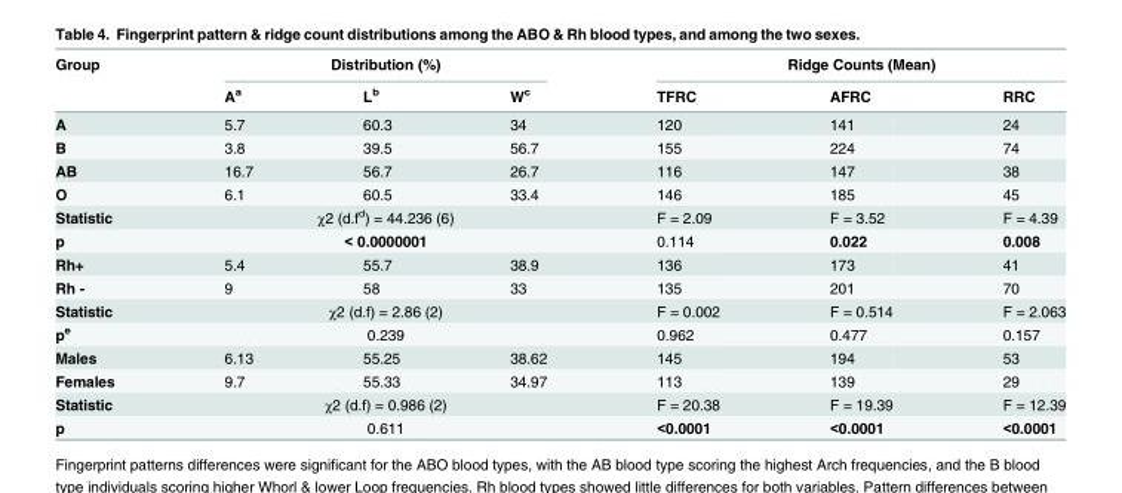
<table><thead><tr><td rowspan="2">Group</td><td colspan="3">Distribution (%)</td><td colspan="3">Ridge Counts (Mean)</td></tr><tr><td>A<sup>a</sup></td><td>L<sup>b</sup></td><td>W<sup>c</sup></td><td>TFRC</td><td>AFRC</td><td>RRC</td></tr></thead><tbody><tr><td>A</td><td>5.7</td><td>60.3</td><td>34</td><td>120</td><td>141</td><td>24</td></tr><tr><td>B</td><td>3.8</td><td>39.5</td><td>56.7</td><td>155</td><td>224</td><td>74</td></tr><tr><td>AB</td><td>16.7</td><td>56.7</td><td>26.7</td><td>116</td><td>147</td><td>38</td></tr><tr><td>O</td><td>6.1</td><td>60.5</td><td>33.4</td><td>146</td><td>185</td><td>45</td></tr><tr><td>Statistic</td><td colspan="3">χ2 (d.f<sup>d</sup>) = 44.236 (6)</td><td>F = 2.09</td><td>F = 3.52</td><td>F = 4.39</td></tr><tr><td>p</td><td colspan="3">&lt; 0.0000001</td><td>0.114</td><td>0.022</td><td>0.008</td></tr><tr><td>Rh+</td><td>5.4</td><td>55.7</td><td>38.9</td><td>136</td><td>173</td><td>41</td></tr><tr><td>Rh -</td><td>9</td><td>58</td><td>33</td><td>135</td><td>201</td><td>70</td></tr><tr><td>Statistic</td><td colspan="3">χ2 (d.f) = 2.86 (2)</td><td>F = 0.002</td><td>F = 0.514</td><td>F = 2.063</td></tr><tr><td>p<sup>e</sup></td><td colspan="3">0.239</td><td>0.962</td><td>0.477</td><td>0.157</td></tr><tr><td>Males</td><td>6.13</td><td>55.25</td><td>38.62</td><td>145</td><td>194</td><td>53</td></tr><tr><td>Females</td><td>9.7</td><td>55.33</td><td>34.97</td><td>113</td><td>139</td><td>29</td></tr><tr><td>Statistic</td><td colspan="3">χ2 (d.f) = 0.986 (2)</td><td>F = 20.38</td><td>F = 19.39</td><td>F = 12.39</td></tr><tr><td>p</td><td colspan="3">0.611</td><td>&lt;0.0001</td><td>&lt;0.0001</td><td>&lt;0.0001</td></tr></tbody></table>